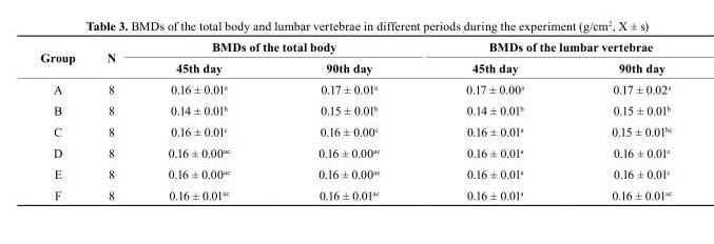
<table><thead><tr><td rowspan="2">Group</td><td rowspan="2">N</td><td colspan="2">bMDs of the total body</td><td colspan="2">bMDs of the lumbar vertebrae</td></tr><tr><td>45th day</td><td>90th day</td><td>45th day</td><td>90th day</td></tr></thead><tbody><tr><td>A</td><td>8</td><td>0.16 ± 0.01<sup>a</sup></td><td>0.17 ± 0.01<sup>a</sup></td><td>0.17 ± 0.00<sup>a</sup></td><td>0.17 ± 0.02<sup>a</sup></td></tr><tr><td>B</td><td>8</td><td>0.14 ± 0.01<sup>b</sup></td><td>0.15 ± 0.01<sup>b</sup></td><td>0.14 ± 0.01<sup>b</sup></td><td>0.15 ± 0.01<sup>b</sup></td></tr><tr><td>C</td><td>8</td><td>0.16 ± 0.01<sup>c</sup></td><td>0.16 ± 0.00<sup>c</sup></td><td>0.16 ± 0.01<sup>a</sup></td><td>0.15 ± 0.01<sup>bc</sup></td></tr><tr><td>D</td><td>8</td><td>0.16 ± 0.00<sup>ac</sup></td><td>0.16 ± 0.00<sup>ac</sup></td><td>0.16 ± 0.01<sup>a</sup></td><td>0.16 ± 0.01<sup>c</sup></td></tr><tr><td>E</td><td>8</td><td>0.16 ± 0.00<sup>ac</sup></td><td>0.16 ± 0.00<sup>ac</sup></td><td>0.16 ± 0.01<sup>a</sup></td><td>0.16 ± 0.01<sup>c</sup></td></tr><tr><td>F</td><td>8</td><td>0.16 ± 0.01<sup>ac</sup></td><td>0.16 ± 0.01<sup>ac</sup></td><td>0.16 ± 0.01<sup>a</sup></td><td>0.16 ± 0.01<sup>ac</sup></td></tr></tbody></table>